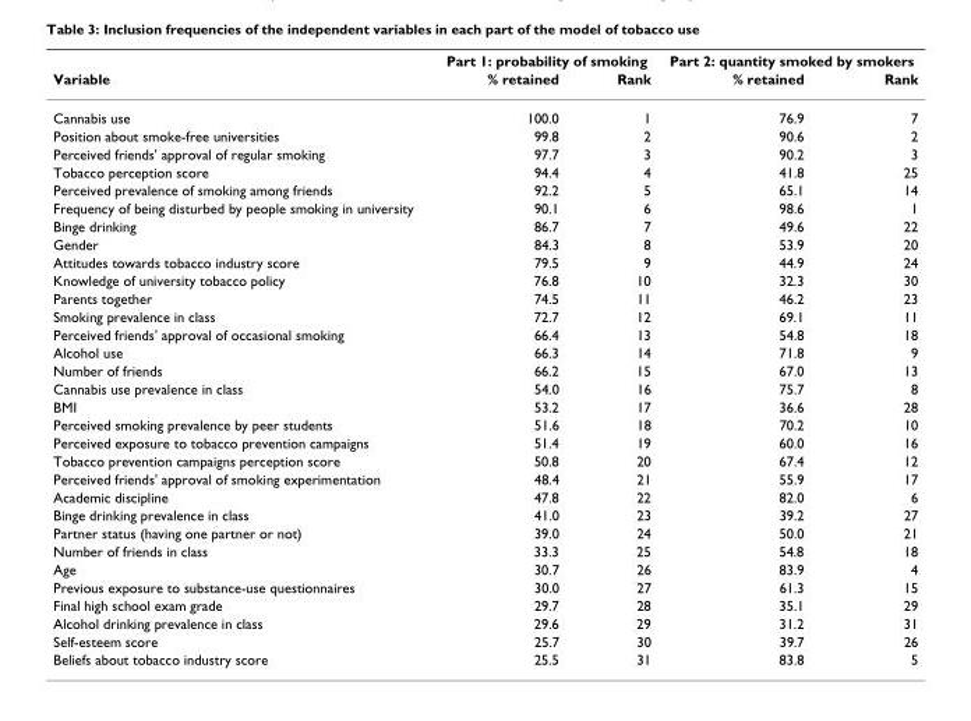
<table><thead><tr><td rowspan="2">Variable</td><td colspan="2">Part 1: probability of smoking</td><td colspan="2">Part 2: quantity smoked by smokers</td></tr><tr><td>% retained</td><td>Rank</td><td>% retained</td><td>Rank</td></tr></thead><tbody><tr><td>Cannabis use</td><td>100.0</td><td>1</td><td>76.9</td><td>7</td></tr><tr><td>Position about smoke-free universities</td><td>99.8</td><td>2</td><td>90.6</td><td>2</td></tr><tr><td>Perceived friends&#x27; approval of regular smoking</td><td>97.7</td><td>3</td><td>90.2</td><td>3</td></tr><tr><td>Tobacco perception score</td><td>94.4</td><td>4</td><td>41.8</td><td>25</td></tr><tr><td>Perceived prevalence of smoking among friends</td><td>92.2</td><td>5</td><td>65.1</td><td>14</td></tr><tr><td>Frequency of being disturbed by people smoking in university</td><td>90.1</td><td>6</td><td>98.6</td><td>1</td></tr><tr><td>Binge drinking</td><td>86.7</td><td>7</td><td>49.6</td><td>22</td></tr><tr><td>Gender</td><td>84.3</td><td>8</td><td>53.9</td><td>20</td></tr><tr><td>Attitudes towards tobacco industry score</td><td>79.5</td><td>9</td><td>44.9</td><td>24</td></tr><tr><td>Knowledge of university tobacco policy</td><td>76.8</td><td>10</td><td>32.3</td><td>30</td></tr><tr><td>Parents together</td><td>74.5</td><td>11</td><td>46.2</td><td>23</td></tr><tr><td>Smoking prevalence in class</td><td>72.7</td><td>12</td><td>69.1</td><td>11</td></tr><tr><td>Perceived friends&#x27; approval of occasional smoking</td><td>66.4</td><td>13</td><td>54.8</td><td>18</td></tr><tr><td>Alcohol use</td><td>66.3</td><td>14</td><td>71.8</td><td>9</td></tr><tr><td>Number of friends</td><td>66.2</td><td>15</td><td>67.0</td><td>13</td></tr><tr><td>Cannabis use prevalence in class</td><td>54.0</td><td>16</td><td>75.7</td><td>8</td></tr><tr><td>BMI</td><td>53.2</td><td>17</td><td>36.6</td><td>28</td></tr><tr><td>Perceived smoking prevalence by peer students</td><td>51.6</td><td>18</td><td>70.2</td><td>10</td></tr><tr><td>Perceived exposure to tobacco prevention campaigns</td><td>51.4</td><td>19</td><td>60.0</td><td>16</td></tr><tr><td>Tobacco prevention campaigns perception score</td><td>50.8</td><td>20</td><td>67.4</td><td>12</td></tr><tr><td>Perceived friends&#x27; approval of smoking experimentation</td><td>48.4</td><td>21</td><td>55.9</td><td>17</td></tr><tr><td>Academic discipline</td><td>47.8</td><td>22</td><td>82.0</td><td>6</td></tr><tr><td>Binge drinking prevalence in class</td><td>41.0</td><td>23</td><td>39.2</td><td>27</td></tr><tr><td>Partner status (having one partner or not)</td><td>39.0</td><td>24</td><td>50.0</td><td>21</td></tr><tr><td>Number of friends in class</td><td>33.3</td><td>25</td><td>54.8</td><td>18</td></tr><tr><td>Age</td><td>30.7</td><td>26</td><td>83.9</td><td>4</td></tr><tr><td>Previous exposure to substance-use questionnaires</td><td>30.0</td><td>27</td><td>61.3</td><td>15</td></tr><tr><td>Final high school exam grade</td><td>29.7</td><td>28</td><td>35.1</td><td>29</td></tr><tr><td>Alcohol drinking prevalence in class</td><td>29.6</td><td>29</td><td>31.2</td><td>31</td></tr><tr><td>Self-esteem score</td><td>25.7</td><td>30</td><td>39.7</td><td>26</td></tr><tr><td>Beliefs about tobacco industry score</td><td>25.5</td><td>31</td><td>83.8</td><td>5</td></tr></tbody></table>